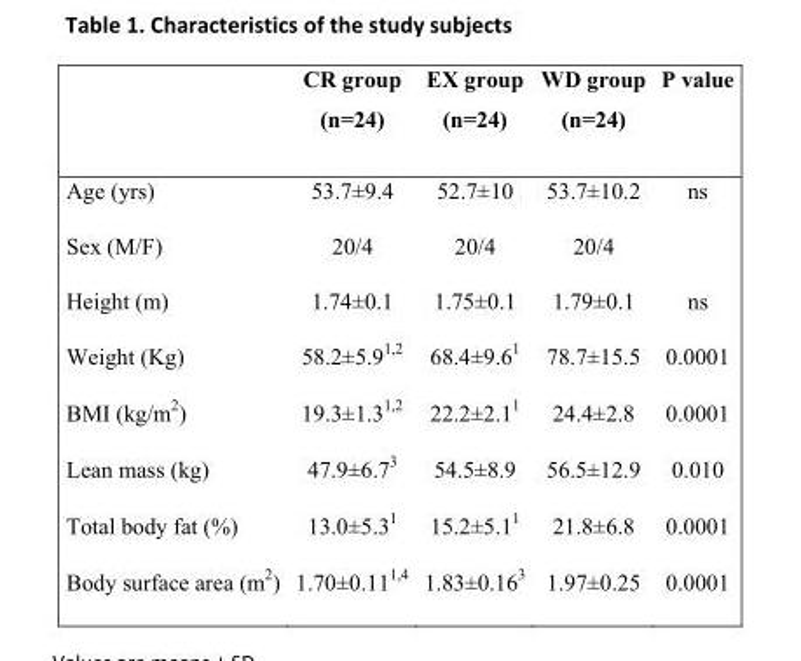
<table><thead><tr><td></td><td>CR group (n=24)</td><td>EX group (n=24)</td><td>WD group (n=24)</td><td>P value</td></tr></thead><tbody><tr><td>Age (yrs)</td><td>53.7±9.4</td><td>52.7±10</td><td>53.7±10.2</td><td>ns</td></tr><tr><td>Sex (M/F)</td><td>20/4</td><td>20/4</td><td>20/4</td><td></td></tr><tr><td>Height (m)</td><td>1.74±0.1</td><td>1.75±0.1</td><td>1.79±0.1</td><td>ns</td></tr><tr><td>Weight (Kg)</td><td>58.2±5.9<sup>1,2</sup></td><td>68.4±9.6<sup>1</sup></td><td>78.7±15.5</td><td>0.0001</td></tr><tr><td>BMI (kg/m<sup>2</sup>)</td><td>19.3±1.3<sup>1,2</sup></td><td>22.2±2.1<sup>1</sup></td><td>24.4±2.8</td><td>0.0001</td></tr><tr><td>Lean mass (kg)</td><td>47.9±6.7<sup>3</sup></td><td>54.5±8.9</td><td>56.5±12.9</td><td>0.010</td></tr><tr><td>Total body fat (%)</td><td>13.0±5.3<sup>1</sup></td><td>15.2±5.1<sup>1</sup></td><td>21.8±6.8</td><td>0.0001</td></tr><tr><td>Body surface area (m<sup>2</sup>)</td><td>1.70±0.11<sup>1,4</sup></td><td>1.83±0.16<sup>3</sup></td><td>1.97±0.25</td><td>0.0001</td></tr></tbody></table>